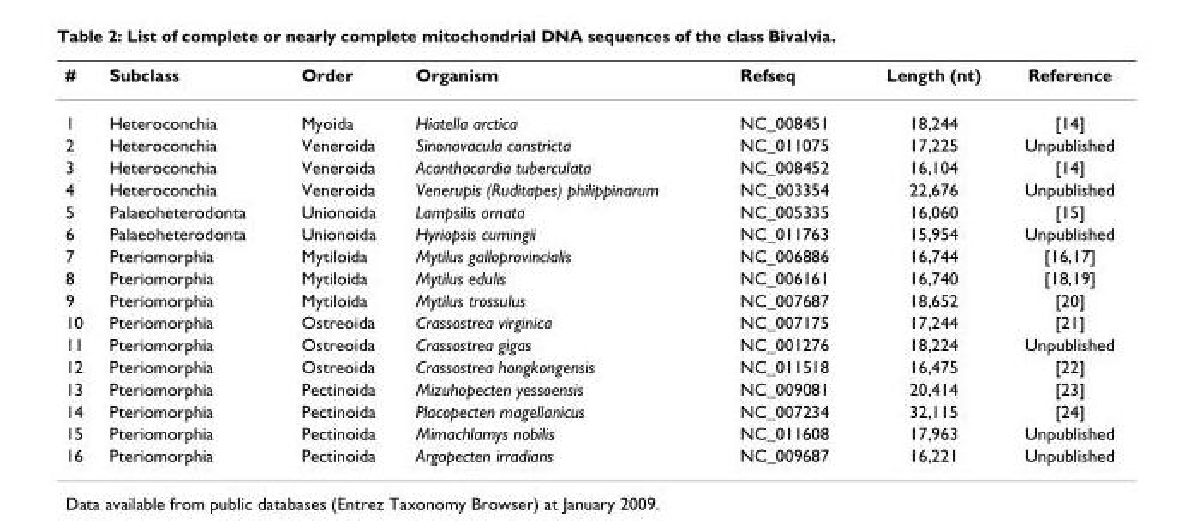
<table><thead><tr><td>#</td><td>Subclass</td><td>Order</td><td>Organism</td><td>Refseq</td><td>Length (nt)</td><td>Reference</td></tr></thead><tbody><tr><td>1</td><td>Heteroconchia</td><td>Myoida</td><td>Hiatella arctica</td><td>NC_008451</td><td>18,244</td><td>[14]</td></tr><tr><td>2</td><td>Heteroconchia</td><td>Veneroida</td><td>Sinonovacula constricta</td><td>NC_011075</td><td>17,225</td><td>Unpublished</td></tr><tr><td>3</td><td>Heteroconchia</td><td>Veneroida</td><td>Acanthocardia tuberculata</td><td>NC_008452</td><td>16,104</td><td>[14]</td></tr><tr><td>4</td><td>Heteroconchia</td><td>Veneroida</td><td>Venerupis (Ruditapes) philippinarum</td><td>NC_003354</td><td>22,676</td><td>Unpublished</td></tr><tr><td>5</td><td>Palaeoheterodonta</td><td>Unionoida</td><td>Lampsilis ornata</td><td>NC_005335</td><td>16,060</td><td>[15]</td></tr><tr><td>6</td><td>Palaeoheterodonta</td><td>Unionoida</td><td>Hyriopsis cumingii</td><td>NC_011763</td><td>15,954</td><td>Unpublished</td></tr><tr><td>7</td><td>Pteriomorphia</td><td>Mytiloida</td><td>Mytilus galloprovincialis</td><td>NC_006886</td><td>16,744</td><td>[16,17]</td></tr><tr><td>8</td><td>Pteriomorphia</td><td>Mytiloida</td><td>Mytilus edulis</td><td>NC_006161</td><td>16,740</td><td>[18,19]</td></tr><tr><td>9</td><td>Pteriomorphia</td><td>Mytiloida</td><td>Mytilus trossulus</td><td>NC_007687</td><td>18,652</td><td>[20]</td></tr><tr><td>10</td><td>Pteriomorphia</td><td>Ostreoida</td><td>Crassostrea virginica</td><td>NC_007175</td><td>17,244</td><td>[21]</td></tr><tr><td>11</td><td>Pteriomorphia</td><td>Ostreoida</td><td>Crassostrea gigas</td><td>NC_001276</td><td>18,224</td><td>Unpublished</td></tr><tr><td>12</td><td>Pteriomorphia</td><td>Ostreoida</td><td>Crassostrea hongkongensis</td><td>NC_011518</td><td>16,475</td><td>[22]</td></tr><tr><td>13</td><td>Pteriomorphia</td><td>Pectinoida</td><td>Mizuhopecten yessoensis</td><td>NC_009081</td><td>20,414</td><td>[23]</td></tr><tr><td>14</td><td>Pteriomorphia</td><td>Pectinoida</td><td>Placopecten magellanicus</td><td>NC_007234</td><td>32,115</td><td>[24]</td></tr><tr><td>15</td><td>Pteriomorphia</td><td>Pectinoida</td><td>Mimachlamys nobilis</td><td>NC_011608</td><td>17,963</td><td>Unpublished</td></tr><tr><td>16</td><td>Pteriomorphia</td><td>Pectinoida</td><td>Argopecten irradians</td><td>NC_009687</td><td>16,221</td><td>Unpublished</td></tr></tbody></table>